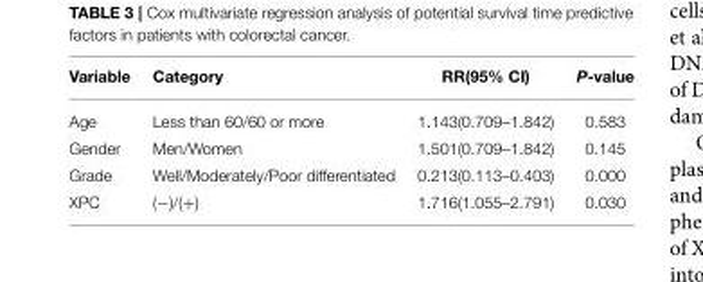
<table><thead><tr><td>Variable</td><td>Category</td><td>RR(95% CI)</td><td>P-value</td></tr></thead><tbody><tr><td>Age</td><td>Less than 60/60 or more</td><td>1.143(0.709–1.842)</td><td>0.583</td></tr><tr><td>Gender</td><td>Men/Women</td><td>1.501(0.709–1.842)</td><td>0.145</td></tr><tr><td>Grade</td><td>Well/Moderately/Poor differentiated</td><td>0.213(0.113–0.403)</td><td>0.000</td></tr><tr><td>XPC</td><td>(−)/(+)</td><td>1.716(1.055–2.791)</td><td>0.030</td></tr></tbody></table>